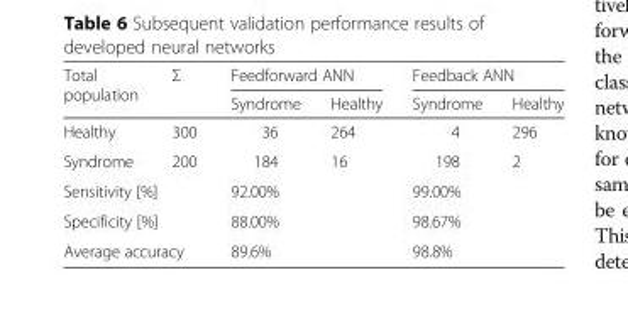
<table><thead><tr><td rowspan="2">Total population</td><td rowspan="2">Σ</td><td colspan="2">Feedforward ANN</td><td colspan="2">Feedback ANN</td></tr><tr><td>Syndrome</td><td>Healthy</td><td>Syndrome</td><td>Healthy</td></tr></thead><tbody><tr><td>Healthy</td><td>300</td><td>36</td><td>264</td><td>4</td><td>296</td></tr><tr><td>Syndrome</td><td>200</td><td>184</td><td>16</td><td>198</td><td>2</td></tr><tr><td colspan="2">Sensitivity [%]</td><td colspan="2">92.00%</td><td colspan="2">99.00%</td></tr><tr><td colspan="2">Specificity [%]</td><td colspan="2">88.00%</td><td colspan="2">98.67%</td></tr><tr><td colspan="2">Average accuracy</td><td colspan="2">89.6%</td><td colspan="2">98.8%</td></tr></tbody></table>